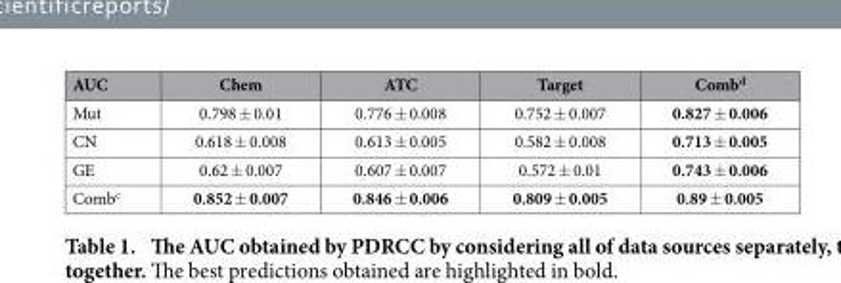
<table><thead><tr><td>AUC</td><td>Chem</td><td>ATC</td><td>Target</td><td>Comb<sup>d</sup></td></tr></thead><tbody><tr><td>Mut</td><td>0.798 ± 0.01</td><td>0.776 ± 0.008</td><td>0.752 ± 0.007</td><td>0.827 ± 0.006</td></tr><tr><td>CN</td><td>0.618 ± 0.008</td><td>0.613 ± 0.005</td><td>0.582 ± 0.008</td><td>0.713 ± 0.005</td></tr><tr><td>GE</td><td>0.62 ± 0.007</td><td>0.607 ± 0.007</td><td>0.572 ± 0.01</td><td>0.743 ± 0.006</td></tr><tr><td>Comb<sup>c</sup></td><td>0.852 ± 0.007</td><td>0.846 ± 0.006</td><td>0.809 ± 0.005</td><td>0.89 ± 0.005</td></tr></tbody></table>